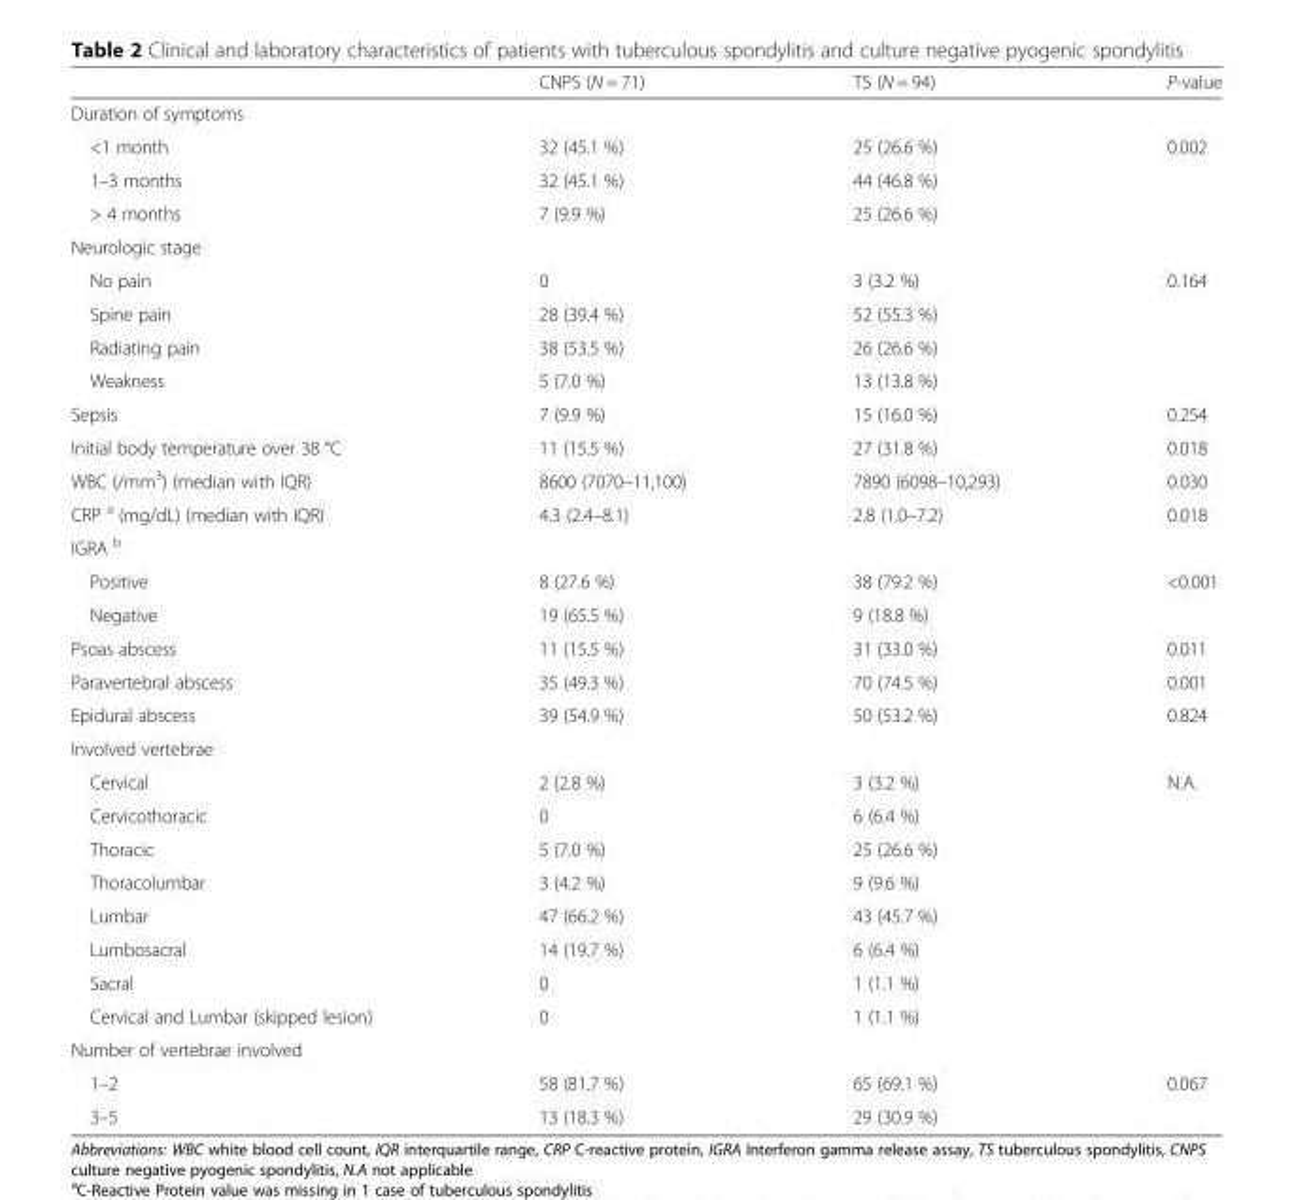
<table><thead><tr><td></td><td>CNPS (N = 71)</td><td>TS (N = 94)</td><td>P-value</td></tr></thead><tbody><tr><td colspan="4">Duration of symptoms</td></tr><tr><td>&lt;1 month</td><td>32 (45.1 %)</td><td>25 (26.6 %)</td><td rowspan="3">0.002</td></tr><tr><td>1–3 months</td><td>32 (45.1 %)</td><td>44 (46.8 %)</td></tr><tr><td>&gt; 4 months</td><td>7 (9.9 %)</td><td>25 (26.6 %)</td></tr><tr><td colspan="4">Neurologic stage</td></tr><tr><td>No pain</td><td>0</td><td>3 (3.2 %)</td><td rowspan="4">0.164</td></tr><tr><td>Spine pain</td><td>28 (39.4 %)</td><td>52 (55.3 %)</td></tr><tr><td>Radiating pain</td><td>38 (53.5 %)</td><td>26 (26.6 %)</td></tr><tr><td>Weakness</td><td>5 (7.0 %)</td><td>13 (13.8 %)</td></tr><tr><td>Sepsis</td><td>7 (9.9 %)</td><td>15 (16.0 %)</td><td>0.254</td></tr><tr><td>Initial body temperature over 38 °C</td><td>11 (15.5 %)</td><td>27 (31.8 %)</td><td>0.018</td></tr><tr><td>WBC (/mm<sup>3</sup>) (median with IQR)</td><td>8600 (7070–11,100)</td><td>7890 (6098–10,293)</td><td>0.030</td></tr><tr><td>CRP <sup>a</sup> (mg/dL) (median with IQR)</td><td>4.3 (2.4–8.1)</td><td>2.8 (1.0–7.2)</td><td>0.018</td></tr><tr><td colspan="4">IGRA <sup>b</sup></td></tr><tr><td>Positive</td><td>8 (27.6 %)</td><td>38 (79.2 %)</td><td rowspan="2">&lt;0.001</td></tr><tr><td>Negative</td><td>19 (65.5 %)</td><td>9 (18.8 %)</td></tr><tr><td>Psoas abscess</td><td>11 (15.5 %)</td><td>31 (33.0 %)</td><td>0.011</td></tr><tr><td>Paravertebral abscess</td><td>35 (49.3 %)</td><td>70 (74.5 %)</td><td>0.001</td></tr><tr><td>Epidural abscess</td><td>39 (54.9 %)</td><td>50 (53.2 %)</td><td>0.824</td></tr><tr><td colspan="4">Involved vertebrae</td></tr><tr><td>Cervical</td><td>2 (2.8 %)</td><td>3 (3.2 %)</td><td rowspan="8">N.A.</td></tr><tr><td>Cervicothoracic</td><td>0</td><td>6 (6.4 %)</td></tr><tr><td>Thoracic</td><td>5 (7.0 %)</td><td>25 (26.6 %)</td></tr><tr><td>Thoracolumbar</td><td>3 (4.2 %)</td><td>9 (9.6 %)</td></tr><tr><td>Lumbar</td><td>47 (66.2 %)</td><td>43 (45.7 %)</td></tr><tr><td>Lumbosacral</td><td>14 (19.7 %)</td><td>6 (6.4 %)</td></tr><tr><td>Sacral</td><td>0</td><td>1 (1.1 %)</td></tr><tr><td>Cervical and Lumbar (skipped lesion)</td><td>0</td><td>1 (1.1 %)</td></tr><tr><td colspan="4">Number of vertebrae involved</td></tr><tr><td>1–2</td><td>58 (81.7 %)</td><td>65 (69.1 %)</td><td rowspan="2">0.067</td></tr><tr><td>3–5</td><td>13 (18.3 %)</td><td>29 (30.9 %)</td></tr></tbody></table>